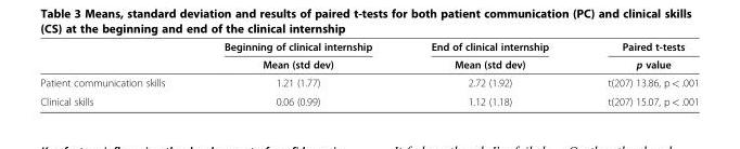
<table><thead><tr><td rowspan="2"></td><td rowspan="2">Beginning of clinical internship Mean (std dev)</td><td rowspan="2">End of clinical internship Mean (std dev)</td><td rowspan="2">Paired t-tests p value</td></tr><tr></tr></thead><tbody><tr><td>Patient communication skills</td><td>1.21 (1.77)</td><td>2.72 (1.92)</td><td>t(207) 13.86, p &lt; .001</td></tr><tr><td>Clinical skills</td><td>0.06 (0.99)</td><td>1.12 (1.18)</td><td>t(207) 15.07, p &lt; .001</td></tr></tbody></table>